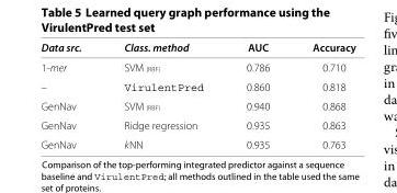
<table><thead><tr><td>Data src.</td><td>Class. method</td><td>AUC</td><td>Accuracy</td></tr></thead><tbody><tr><td>1-mer</td><td>SVM <sub>(RBF)</sub></td><td>0.786</td><td>0.710</td></tr><tr><td>–</td><td>VirulentPred</td><td>0.860</td><td>0.818</td></tr><tr><td>GenNav</td><td>SVM <sub>(RBF)</sub></td><td>0.940</td><td>0.868</td></tr><tr><td>GenNav</td><td>Ridge regression</td><td>0.935</td><td>0.863</td></tr><tr><td>GenNav</td><td>kNN</td><td>0.935</td><td>0.763</td></tr></tbody></table>